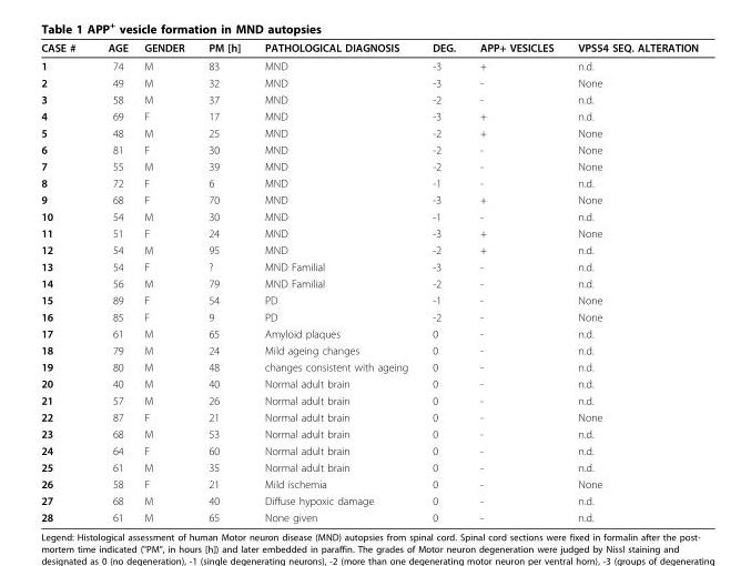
<table><thead><tr><td>CASE #</td><td>AGE</td><td>GENDER</td><td>PM [h]</td><td>PATHOLOGICAL DIAGNOSIS</td><td>DEG.</td><td>APP+ VESICLES</td><td>VPS54 SEQ. ALTERATION</td></tr></thead><tbody><tr><td>1</td><td>74</td><td>M</td><td>83</td><td>MND</td><td>-3</td><td>+</td><td>n.d.</td></tr><tr><td>2</td><td>49</td><td>M</td><td>32</td><td>MND</td><td>-3</td><td>-</td><td>None</td></tr><tr><td>3</td><td>58</td><td>M</td><td>37</td><td>MND</td><td>-2</td><td>-</td><td>n.d.</td></tr><tr><td>4</td><td>69</td><td>F</td><td>17</td><td>MND</td><td>-3</td><td>+</td><td>n.d.</td></tr><tr><td>5</td><td>48</td><td>M</td><td>25</td><td>MND</td><td>-2</td><td>+</td><td>None</td></tr><tr><td>6</td><td>81</td><td>F</td><td>30</td><td>MND</td><td>-2</td><td>-</td><td>None</td></tr><tr><td>7</td><td>55</td><td>M</td><td>39</td><td>MND</td><td>-2</td><td>-</td><td>None</td></tr><tr><td>8</td><td>72</td><td>F</td><td>6</td><td>MND</td><td>-1</td><td>-</td><td>n.d.</td></tr><tr><td>9</td><td>68</td><td>F</td><td>70</td><td>MND</td><td>-3</td><td>+</td><td>None</td></tr><tr><td>10</td><td>54</td><td>M</td><td>30</td><td>MND</td><td>-1</td><td>-</td><td>n.d.</td></tr><tr><td>11</td><td>51</td><td>F</td><td>24</td><td>MND</td><td>-3</td><td>+</td><td>None</td></tr><tr><td>12</td><td>54</td><td>M</td><td>95</td><td>MND</td><td>-2</td><td>+</td><td>n.d.</td></tr><tr><td>13</td><td>54</td><td>F</td><td>?</td><td>MND Familial</td><td>-3</td><td>-</td><td>n.d.</td></tr><tr><td>14</td><td>56</td><td>M</td><td>79</td><td>MND Familial</td><td>-2</td><td>-</td><td>n.d.</td></tr><tr><td>15</td><td>89</td><td>F</td><td>54</td><td>PD</td><td>-1</td><td>-</td><td>None</td></tr><tr><td>16</td><td>85</td><td>F</td><td>9</td><td>PD</td><td>-2</td><td>-</td><td>None</td></tr><tr><td>17</td><td>61</td><td>M</td><td>65</td><td>Amyloid plaques</td><td>0</td><td>-</td><td>n.d.</td></tr><tr><td>18</td><td>79</td><td>M</td><td>24</td><td>Mild ageing changes</td><td>0</td><td>-</td><td>n.d.</td></tr><tr><td>19</td><td>80</td><td>M</td><td>48</td><td>changes consistent with ageing</td><td>0</td><td>-</td><td>n.d.</td></tr><tr><td>20</td><td>40</td><td>M</td><td>40</td><td>Normal adult brain</td><td>0</td><td>-</td><td>n.d.</td></tr><tr><td>21</td><td>57</td><td>M</td><td>26</td><td>Normal adult brain</td><td>0</td><td>-</td><td>n.d.</td></tr><tr><td>22</td><td>87</td><td>F</td><td>21</td><td>Normal adult brain</td><td>0</td><td>-</td><td>None</td></tr><tr><td>23</td><td>68</td><td>M</td><td>53</td><td>Normal adult brain</td><td>0</td><td>-</td><td>n.d.</td></tr><tr><td>24</td><td>64</td><td>F</td><td>60</td><td>Normal adult brain</td><td>0</td><td>-</td><td>n.d.</td></tr><tr><td>25</td><td>61</td><td>M</td><td>35</td><td>Normal adult brain</td><td>0</td><td>-</td><td>n.d.</td></tr><tr><td>26</td><td>58</td><td>F</td><td>21</td><td>Mild ischemia</td><td>0</td><td>-</td><td>None</td></tr><tr><td>27</td><td>68</td><td>M</td><td>40</td><td>Diffuse hypoxic damage</td><td>0</td><td>-</td><td>n.d.</td></tr><tr><td>28</td><td>61</td><td>M</td><td>65</td><td>None given</td><td>0</td><td>-</td><td>n.d.</td></tr></tbody></table>